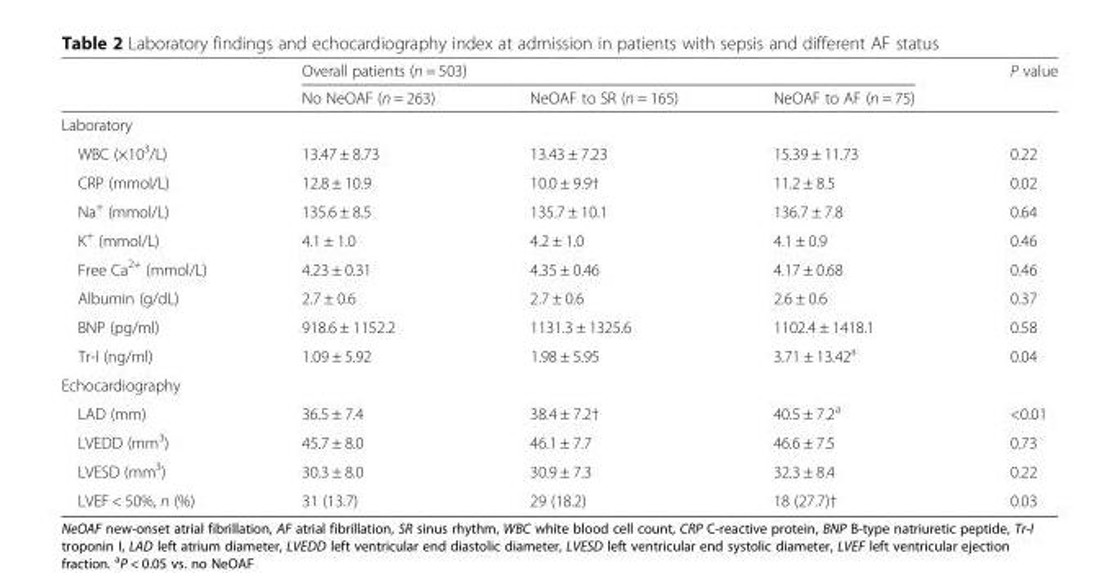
<table><thead><tr><td rowspan="2"></td><td colspan="3">Overall patients (n = 503)</td><td rowspan="2">P value</td></tr><tr><td>No NeOAF (n = 263)</td><td>NeOAF to SR (n = 165)</td><td>NeOAF to AF (n = 75)</td></tr></thead><tbody><tr><td colspan="5">Laboratory</td></tr><tr><td>WBC (×10<sup>3</sup>/L)</td><td>13.47 ± 8.73</td><td>13.43 ± 7.23</td><td>15.39 ± 11.73</td><td>0.22</td></tr><tr><td>CRP (mmol/L)</td><td>12.8 ± 10.9</td><td>10.0 ± 9.9†</td><td>11.2 ± 8.5</td><td>0.02</td></tr><tr><td>Na<sup>+</sup> (mmol/L)</td><td>135.6 ± 8.5</td><td>135.7 ± 10.1</td><td>136.7 ± 7.8</td><td>0.64</td></tr><tr><td>K<sup>+</sup> (mmol/L)</td><td>4.1 ± 1.0</td><td>4.2 ± 1.0</td><td>4.1 ± 0.9</td><td>0.46</td></tr><tr><td>Free Ca<sup>2+</sup> (mmol/L)</td><td>4.23 ± 0.31</td><td>4.35 ± 0.46</td><td>4.17 ± 0.68</td><td>0.46</td></tr><tr><td>Albumin (g/dL)</td><td>2.7 ± 0.6</td><td>2.7 ± 0.6</td><td>2.6 ± 0.6</td><td>0.37</td></tr><tr><td>BNP (pg/ml)</td><td>918.6 ± 1152.2</td><td>1131.3 ± 1325.6</td><td>1102.4 ± 1418.1</td><td>0.58</td></tr><tr><td>Tr-I (ng/ml)</td><td>1.09 ± 5.92</td><td>1.98 ± 5.95</td><td>3.71 ± 13.42<sup>a</sup></td><td>0.04</td></tr><tr><td colspan="5">Echocardiography</td></tr><tr><td>LAD (mm)</td><td>36.5 ± 7.4</td><td>38.4 ± 7.2†</td><td>40.5 ± 7.2<sup>a</sup></td><td>&lt;0.01</td></tr><tr><td>LVEDD (mm<sup>3</sup>)</td><td>45.7 ± 8.0</td><td>46.1 ± 7.7</td><td>46.6 ± 7.5</td><td>0.73</td></tr><tr><td>LVESD (mm<sup>3</sup>)</td><td>30.3 ± 8.0</td><td>30.9 ± 7.3</td><td>32.3 ± 8.4</td><td>0.22</td></tr><tr><td>LVEF &lt; 50%, n (%)</td><td>31 (13.7)</td><td>29 (18.2)</td><td>18 (27.7)†</td><td>0.03</td></tr></tbody></table>